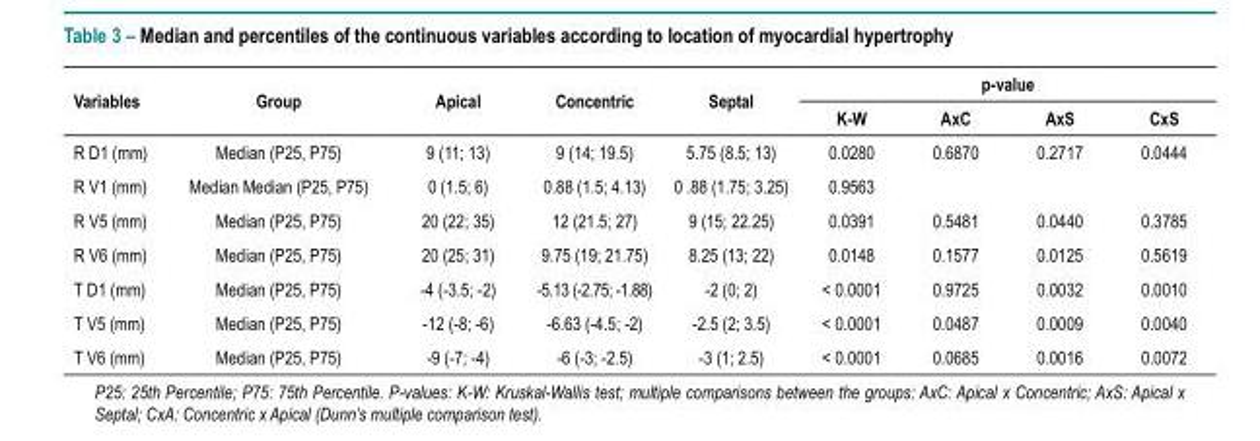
<table><thead><tr><td rowspan="2">Variables</td><td rowspan="2">Group</td><td rowspan="2">Apical</td><td rowspan="2">Concentric</td><td rowspan="2">Septal</td><td colspan="4">p-value</td></tr><tr><td>K-W</td><td>AxC</td><td>AxS</td><td>CxS</td></tr></thead><tbody><tr><td>R D1 (mm)</td><td>Median (P25, P75)</td><td>9 (11; 13)</td><td>9 (14; 19.5)</td><td>5.75 (8.5; 13)</td><td>0.0280</td><td>0.6870</td><td>0.2717</td><td>0.0444</td></tr><tr><td>R V1 (mm)</td><td>Median Median (P25, P75)</td><td>0 (1.5; 6)</td><td>0.88 (1.5; 4.13)</td><td>0 .88 (1.75; 3.25)</td><td>0.9563</td><td></td><td></td><td></td></tr><tr><td>R V5 (mm)</td><td>Median (P25, P75)</td><td>20 (22; 35)</td><td>12 (21.5; 27)</td><td>9 (15; 22.25)</td><td>0.0391</td><td>0.5481</td><td>0.0440</td><td>0.3785</td></tr><tr><td>R V6 (mm)</td><td>Median (P25, P75)</td><td>20 (25; 31)</td><td>9.75 (19; 21.75)</td><td>8.25 (13; 22)</td><td>0.0148</td><td>0.1577</td><td>0.0125</td><td>0.5619</td></tr><tr><td>T D1 (mm)</td><td>Median (P25, P75)</td><td>-4 (-3.5; -2)</td><td>-5.13 (-2.75; -1.88)</td><td>-2 (0; 2)</td><td>&lt; 0.0001</td><td>0.9725</td><td>0.0032</td><td>0.0010</td></tr><tr><td>T V5 (mm)</td><td>Median (P25, P75)</td><td>-12 (-8; -6)</td><td>-6.63 (-4.5; -2)</td><td>-2.5 (2; 3.5)</td><td>&lt; 0.0001</td><td>0.0487</td><td>0.0009</td><td>0.0040</td></tr><tr><td>T V6 (mm)</td><td>Median (P25, P75)</td><td>-9 (-7; -4)</td><td>-6 (-3; -2.5)</td><td>-3 (1; 2.5)</td><td>&lt; 0.0001</td><td>0.0685</td><td>0.0016</td><td>0.0072</td></tr></tbody></table>